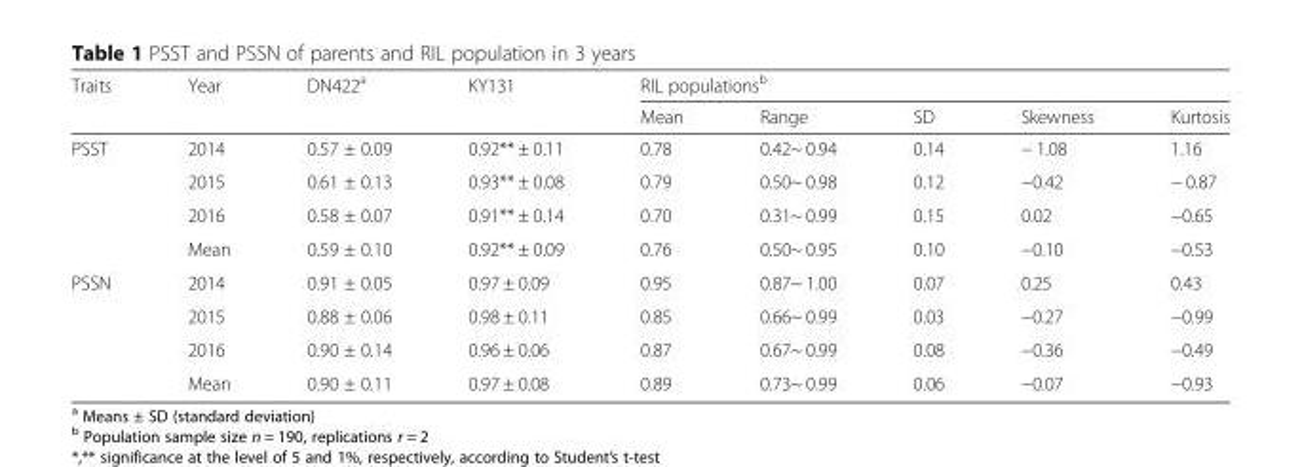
<table><thead><tr><td rowspan="2">Traits</td><td rowspan="2">Year</td><td rowspan="2">DN422<sup>a</sup></td><td rowspan="2">KY131</td><td colspan="5">RIL populations<sup>b</sup></td></tr><tr><td>Mean</td><td>Range</td><td>SD</td><td>Skewness</td><td>Kurtosis</td></tr></thead><tbody><tr><td rowspan="4">PSST</td><td>2014</td><td>0.57 ± 0.09</td><td>0.92** ± 0.11</td><td>0.78</td><td>0.42~ 0.94</td><td>0.14</td><td>− 1.08</td><td>1.16</td></tr><tr><td>2015</td><td>0.61 ± 0.13</td><td>0.93** ± 0.08</td><td>0.79</td><td>0.50~ 0.98</td><td>0.12</td><td>−0.42</td><td>− 0.87</td></tr><tr><td>2016</td><td>0.58 ± 0.07</td><td>0.91** ± 0.14</td><td>0.70</td><td>0.31~ 0.99</td><td>0.15</td><td>0.02</td><td>−0.65</td></tr><tr><td>Mean</td><td>0.59 ± 0.10</td><td>0.92** ± 0.09</td><td>0.76</td><td>0.50~ 0.95</td><td>0.10</td><td>−0.10</td><td>−0.53</td></tr><tr><td rowspan="4">PSSN</td><td>2014</td><td>0.91 ± 0.05</td><td>0.97 ± 0.09</td><td>0.95</td><td>0.87~ 1.00</td><td>0.07</td><td>0.25</td><td>0.43</td></tr><tr><td>2015</td><td>0.88 ± 0.06</td><td>0.98 ± 0.11</td><td>0.85</td><td>0.66~ 0.99</td><td>0.03</td><td>−0.27</td><td>−0.99</td></tr><tr><td>2016</td><td>0.90 ± 0.14</td><td>0.96 ± 0.06</td><td>0.87</td><td>0.67~ 0.99</td><td>0.08</td><td>−0.36</td><td>−0.49</td></tr><tr><td>Mean</td><td>0.90 ± 0.11</td><td>0.97 ± 0.08</td><td>0.89</td><td>0.73~ 0.99</td><td>0.06</td><td>−0.07</td><td>−0.93</td></tr></tbody></table>